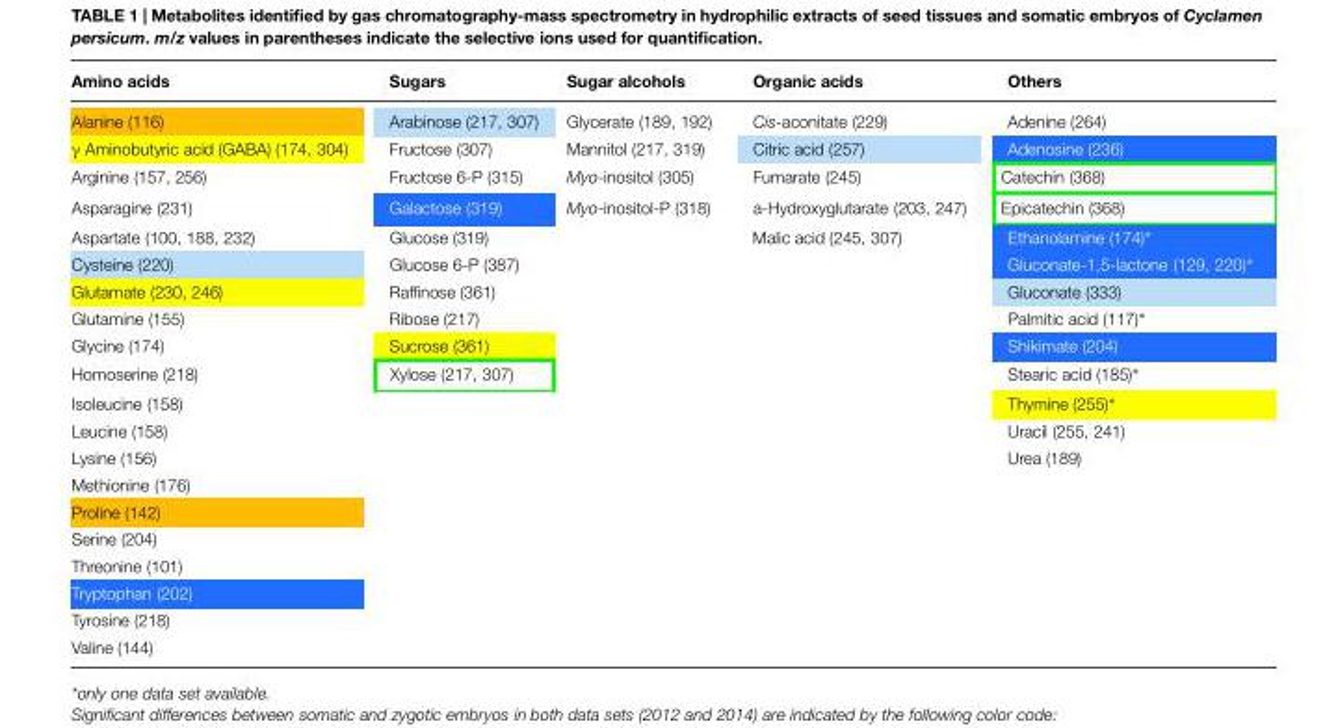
<table><thead><tr><td>Amino acids</td><td>Sugars</td><td>Sugar alcohols</td><td>Organic acids</td><td>Others</td></tr></thead><tbody><tr><td>Alanine (116)</td><td>Arabinose (217, 307)</td><td>Glycerate (189, 192)</td><td>Cis-aconitate (229)</td><td>Adenine (264)</td></tr><tr><td>γ Aminobutyric acid (GABA) (174, 304)</td><td>Fructose (307)</td><td>Mannitol (217, 319)</td><td>Citric acid (257)</td><td>Adenosine (236)</td></tr><tr><td>Arginine (157, 256)</td><td>Fructose 6-P (315)</td><td>Myo-inositol (305)</td><td>Fumarate (245)</td><td>Catechin (368)</td></tr><tr><td>Asparagine (231)</td><td>Galactose (319)</td><td>Myo-inositol-P (318)</td><td>a-Hydroxyglutarate (203, 247)</td><td>Epicatechin (368)</td></tr><tr><td>Aspartate (100, 188, 232)</td><td>Glucose (319)</td><td></td><td>Malic acid (245, 307)</td><td>Ethanolamine (174)∗</td></tr><tr><td>Cysteine (220)</td><td>Glucose 6-P (387)</td><td></td><td></td><td>Gluconate-1,5-lactone (129, 220)∗</td></tr><tr><td>Glutamate (230, 246)</td><td>Raffinose (361)</td><td></td><td></td><td>Gluconate (333)</td></tr><tr><td>Glutamine (155)</td><td>Ribose (217)</td><td></td><td></td><td>Palmitic acid (117)∗</td></tr><tr><td>Glycine (174)</td><td>Sucrose (361)</td><td></td><td></td><td>Shikimate (204)</td></tr><tr><td>Homoserine (218)</td><td>Xylose (217, 307)</td><td></td><td></td><td>Stearic acid (185)∗</td></tr><tr><td>Isoleucine (158)</td><td></td><td></td><td></td><td>Thymine (255)∗</td></tr><tr><td>Leucine (158)</td><td></td><td></td><td></td><td>Uracil (255, 241)</td></tr><tr><td>Lysine (156)</td><td></td><td></td><td></td><td>Urea (189)</td></tr><tr><td colspan="5">Methionine (176)</td></tr><tr><td colspan="5">Proline (142)</td></tr><tr><td colspan="5">Serine (204)</td></tr><tr><td colspan="5">Threonine (101)</td></tr><tr><td colspan="5">Tryptophan (202)</td></tr><tr><td colspan="5">Tyrosine (218)</td></tr><tr><td>Valine (144)</td><td></td><td></td><td></td><td></td></tr></tbody></table>